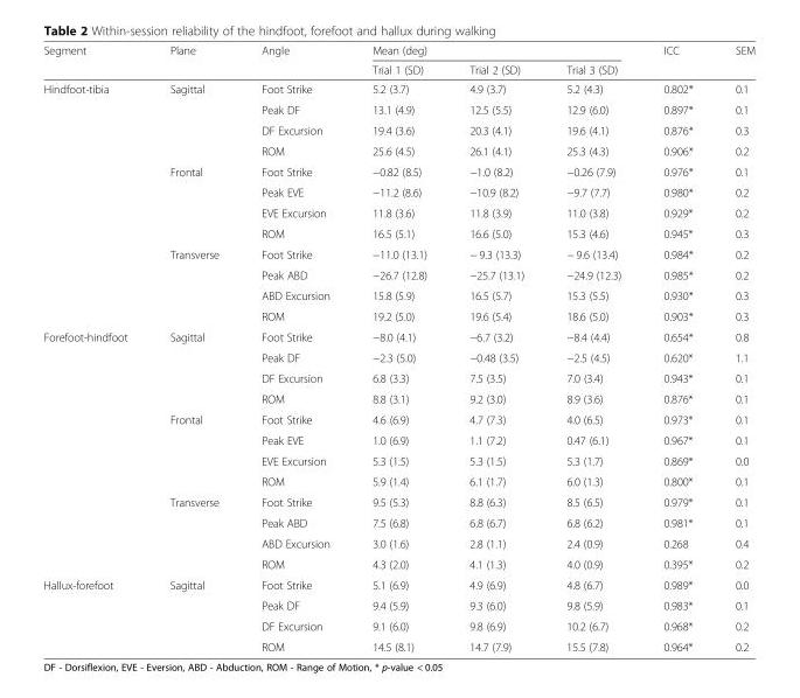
<table><thead><tr><td rowspan="2">Segment</td><td rowspan="2">Plane</td><td rowspan="2">Angle</td><td colspan="3">Mean (deg)</td><td rowspan="2">ICC</td><td rowspan="2">SEM</td></tr><tr><td>Trial 1 (SD)</td><td>Trial 2 (SD)</td><td>Trial 3 (SD)</td></tr></thead><tbody><tr><td rowspan="12">Hindfoot-tibia</td><td>Sagittal</td><td>Foot Strike</td><td>5.2 (3.7)</td><td>4.9 (3.7)</td><td>5.2 (4.3)</td><td>0.802*</td><td>0.1</td></tr><tr><td></td><td>Peak DF</td><td>13.1 (4.9)</td><td>12.5 (5.5)</td><td>12.9 (6.0)</td><td>0.897*</td><td>0.1</td></tr><tr><td></td><td>DF Excursion</td><td>19.4 (3.6)</td><td>20.3 (4.1)</td><td>19.6 (4.1)</td><td>0.876*</td><td>0.3</td></tr><tr><td></td><td>ROM</td><td>25.6 (4.5)</td><td>26.1 (4.1)</td><td>25.3 (4.3)</td><td>0.906*</td><td>0.2</td></tr><tr><td>Frontal</td><td>Foot Strike</td><td>−0.82 (8.5)</td><td>−1.0 (8.2)</td><td>−0.26 (7.9)</td><td>0.976*</td><td>0.1</td></tr><tr><td></td><td>Peak EVE</td><td>−11.2 (8.6)</td><td>−10.9 (8.2)</td><td>−9.7 (7.7)</td><td>0.980*</td><td>0.2</td></tr><tr><td></td><td>EVE Excursion</td><td>11.8 (3.6)</td><td>11.8 (3.9)</td><td>11.0 (3.8)</td><td>0.929*</td><td>0.2</td></tr><tr><td></td><td>ROM</td><td>16.5 (5.1)</td><td>16.6 (5.0)</td><td>15.3 (4.6)</td><td>0.945*</td><td>0.3</td></tr><tr><td>Transverse</td><td>Foot Strike</td><td>−11.0 (13.1)</td><td>− 9.3 (13.3)</td><td>− 9.6 (13.4)</td><td>0.984*</td><td>0.2</td></tr><tr><td></td><td>Peak ABD</td><td>−26.7 (12.8)</td><td>−25.7 (13.1)</td><td>−24.9 (12.3)</td><td>0.985*</td><td>0.2</td></tr><tr><td></td><td>ABD Excursion</td><td>15.8 (5.9)</td><td>16.5 (5.7)</td><td>15.3 (5.5)</td><td>0.930*</td><td>0.3</td></tr><tr><td></td><td>ROM</td><td>19.2 (5.0)</td><td>19.6 (5.4)</td><td>18.6 (5.0)</td><td>0.903*</td><td>0.3</td></tr><tr><td rowspan="12">Forefoot-hindfoot</td><td>Sagittal</td><td>Foot Strike</td><td>−8.0 (4.1)</td><td>−6.7 (3.2)</td><td>−8.4 (4.4)</td><td>0.654*</td><td>0.8</td></tr><tr><td></td><td>Peak DF</td><td>−2.3 (5.0)</td><td>−0.48 (3.5)</td><td>−2.5 (4.5)</td><td>0.620*</td><td>1.1</td></tr><tr><td></td><td>DF Excursion</td><td>6.8 (3.3)</td><td>7.5 (3.5)</td><td>7.0 (3.4)</td><td>0.943*</td><td>0.1</td></tr><tr><td></td><td>ROM</td><td>8.8 (3.1)</td><td>9.2 (3.0)</td><td>8.9 (3.6)</td><td>0.876*</td><td>0.1</td></tr><tr><td>Frontal</td><td>Foot Strike</td><td>4.6 (6.9)</td><td>4.7 (7.3)</td><td>4.0 (6.5)</td><td>0.973*</td><td>0.1</td></tr><tr><td></td><td>Peak EVE</td><td>1.0 (6.9)</td><td>1.1 (7.2)</td><td>0.47 (6.1)</td><td>0.967*</td><td>0.1</td></tr><tr><td></td><td>EVE Excursion</td><td>5.3 (1.5)</td><td>5.3 (1.5)</td><td>5.3 (1.7)</td><td>0.869*</td><td>0.0</td></tr><tr><td></td><td>ROM</td><td>5.9 (1.4)</td><td>6.1 (1.7)</td><td>6.0 (1.3)</td><td>0.800*</td><td>0.1</td></tr><tr><td>Transverse</td><td>Foot Strike</td><td>9.5 (5.3)</td><td>8.8 (6.3)</td><td>8.5 (6.5)</td><td>0.979*</td><td>0.1</td></tr><tr><td></td><td>Peak ABD</td><td>7.5 (6.8)</td><td>6.8 (6.7)</td><td>6.8 (6.2)</td><td>0.981*</td><td>0.1</td></tr><tr><td></td><td>ABD Excursion</td><td>3.0 (1.6)</td><td>2.8 (1.1)</td><td>2.4 (0.9)</td><td>0.268</td><td>0.4</td></tr><tr><td></td><td>ROM</td><td>4.3 (2.0)</td><td>4.1 (1.3)</td><td>4.0 (0.9)</td><td>0.395*</td><td>0.2</td></tr><tr><td rowspan="4">Hallux-forefoot</td><td>Sagittal</td><td>Foot Strike</td><td>5.1 (6.9)</td><td>4.9 (6.9)</td><td>4.8 (6.7)</td><td>0.989*</td><td>0.0</td></tr><tr><td></td><td>Peak DF</td><td>9.4 (5.9)</td><td>9.3 (6.0)</td><td>9.8 (5.9)</td><td>0.983*</td><td>0.1</td></tr><tr><td></td><td>DF Excursion</td><td>9.1 (6.0)</td><td>9.8 (6.9)</td><td>10.2 (6.7)</td><td>0.968*</td><td>0.2</td></tr><tr><td></td><td>ROM</td><td>14.5 (8.1)</td><td>14.7 (7.9)</td><td>15.5 (7.8)</td><td>0.964*</td><td>0.2</td></tr></tbody></table>